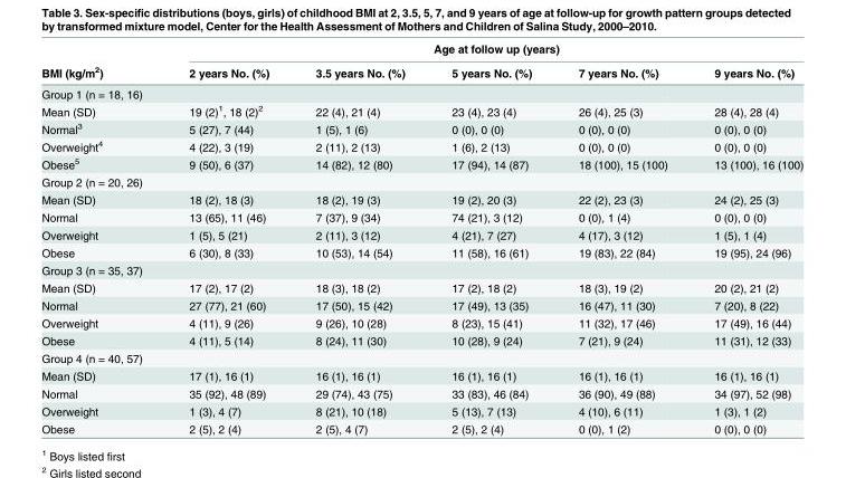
<table><thead><tr><td rowspan="2">BMI (kg/m<sup>2</sup>)</td><td colspan="5">Age at follow up (years)</td></tr><tr><td>2 years No. (%)</td><td>3.5 years No. (%)</td><td>5 years No. (%)</td><td>7 years No. (%)</td><td>9 years No. (%)</td></tr></thead><tbody><tr><td colspan="6">Group 1 (n = 18, 16)</td></tr><tr><td>Mean (SD)</td><td>19 (2)<sup>1</sup>, 18 (2)<sup>2</sup></td><td>22 (4), 21 (4)</td><td>23 (4), 23 (4)</td><td>26 (4), 25 (3)</td><td>28 (4), 28 (4)</td></tr><tr><td>Normal<sup>3</sup></td><td>5 (27), 7 (44)</td><td>1 (5), 1 (6)</td><td>0 (0), 0 (0)</td><td>0 (0), 0 (0)</td><td>0 (0), 0 (0)</td></tr><tr><td>Overweight<sup>4</sup></td><td>4 (22), 3 (19)</td><td>2 (11), 2 (13)</td><td>1 (6), 2 (13)</td><td>0 (0), 0 (0)</td><td>0 (0), 0 (0)</td></tr><tr><td>Obese<sup>5</sup></td><td>9 (50), 6 (37)</td><td>14 (82), 12 (80)</td><td>17 (94), 14 (87)</td><td>18 (100), 15 (100)</td><td>13 (100), 16 (100)</td></tr><tr><td colspan="6">Group 2 (n = 20, 26)</td></tr><tr><td>Mean (SD)</td><td>18 (2), 18 (3)</td><td>18 (2), 19 (3)</td><td>19 (2), 20 (3)</td><td>22 (2), 23 (3)</td><td>24 (2), 25 (3)</td></tr><tr><td>Normal</td><td>13 (65), 11 (46)</td><td>7 (37), 9 (34)</td><td>74 (21), 3 (12)</td><td>0 (0), 1 (4)</td><td>0 (0), 0 (0)</td></tr><tr><td>Overweight</td><td>1 (5), 5 (21)</td><td>2 (11), 3 (12)</td><td>4 (21), 7 (27)</td><td>4 (17), 3 (12)</td><td>1 (5), 1 (4)</td></tr><tr><td>Obese</td><td>6 (30), 8 (33)</td><td>10 (53), 14 (54)</td><td>11 (58), 16 (61)</td><td>19 (83), 22 (84)</td><td>19 (95), 24 (96)</td></tr><tr><td colspan="6">Group 3 (n = 35, 37)</td></tr><tr><td>Mean (SD)</td><td>17 (2), 17 (2)</td><td>18 (3), 18 (2)</td><td>17 (2), 18 (2)</td><td>18 (3), 19 (2)</td><td>20 (2), 21 (2)</td></tr><tr><td>Normal</td><td>27 (77), 21 (60)</td><td>17 (50), 15 (42)</td><td>17 (49), 13 (35)</td><td>16 (47), 11 (30)</td><td>7 (20), 8 (22)</td></tr><tr><td>Overweight</td><td>4 (11), 9 (26)</td><td>9 (26), 10 (28)</td><td>8 (23), 15 (41)</td><td>11 (32), 17 (46)</td><td>17 (49), 16 (44)</td></tr><tr><td>Obese</td><td>4 (11), 5 (14)</td><td>8 (24), 11 (30)</td><td>10 (28), 9 (24)</td><td>7 (21), 9 (24)</td><td>11 (31), 12 (33)</td></tr><tr><td colspan="6">Group 4 (n = 40, 57)</td></tr><tr><td>Mean (SD)</td><td>17 (1), 16 (1)</td><td>16 (1), 16 (1)</td><td>16 (1), 16 (1)</td><td>16 (1), 16 (1)</td><td>16 (1), 16 (1)</td></tr><tr><td>Normal</td><td>35 (92), 48 (89)</td><td>29 (74), 43 (75)</td><td>33 (83), 46 (84)</td><td>36 (90), 49 (88)</td><td>34 (97), 52 (98)</td></tr><tr><td>Overweight</td><td>1 (3), 4 (7)</td><td>8 (21), 10 (18)</td><td>5 (13), 7 (13)</td><td>4 (10), 6 (11)</td><td>1 (3), 1 (2)</td></tr><tr><td>Obese</td><td>2 (5), 2 (4)</td><td>2 (5), 4 (7)</td><td>2 (5), 2 (4)</td><td>0 (0), 1 (2)</td><td>0 (0), 0 (0)</td></tr></tbody></table>